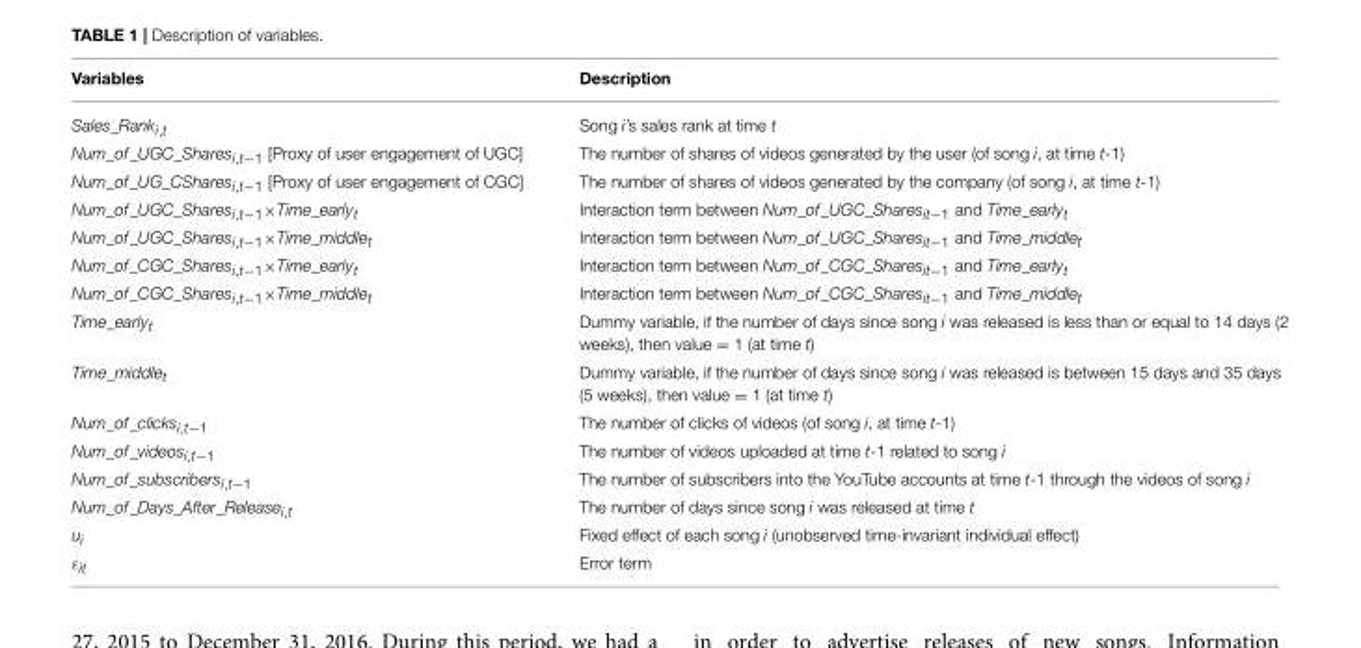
<table><thead><tr><td>Variables</td><td>Description</td></tr></thead><tbody><tr><td>Sales_Rank<sub>i,t</sub></td><td>Song i’s sales rank at time t</td></tr><tr><td>Num_of_UGC_Shares<sub>i,t−1</sub> [Proxy of user engagement of UGC]</td><td>The number of shares of videos generated by the user (of song i, at time t-1)</td></tr><tr><td>Num_of_UG_CShares<sub>i,t−1</sub> [Proxy of user engagement of CGC]</td><td>The number of shares of videos generated by the company (of song i, at time t-1)</td></tr><tr><td>Num_of_UGC_Shares<sub>i,t−1</sub>×Time_early<sub>t</sub></td><td>Interaction term between Num_of_UGC_Shares<sub>it−1</sub> and Time_early<sub>t</sub></td></tr><tr><td>Num_of_UGC_Shares<sub>i,t−1</sub>×Time_middle<sub>t</sub></td><td>Interaction term between Num_of_UGC_Shares<sub>it−1</sub> and Time_middle<sub>t</sub></td></tr><tr><td>Num_of_CGC_Shares<sub>i,t−1</sub>×Time_early<sub>t</sub></td><td>Interaction term between Num_of_CGC_Shares<sub>it−1</sub> and Time_early<sub>t</sub></td></tr><tr><td>Num_of_CGC_Shares<sub>i,t−1</sub>×Time_middle<sub>t</sub></td><td>Interaction term between Num_of_CGC_Shares<sub>it−1</sub> and Time_middle<sub>t</sub></td></tr><tr><td>Time_early<sub>t</sub></td><td>Dummy variable, if the number of days since song i was released is less than or equal to 14 days (2 weeks), then value = 1 (at time t)</td></tr><tr><td>Time_middle<sub>t</sub></td><td>Dummy variable, if the number of days since song i was released is between 15 days and 35 days (5 weeks), then value = 1 (at time t)</td></tr><tr><td>Num_of_clicks<sub>i,t−1</sub></td><td>The number of clicks of videos (of song i, at time t-1)</td></tr><tr><td>Num_of_videos<sub>i,t−1</sub></td><td>The number of videos uploaded at time t-1 related to song i</td></tr><tr><td>Num_of_subscribers<sub>i,t−1</sub></td><td>The number of subscribers into the YouTube accounts at time t-1 through the videos of song i</td></tr><tr><td>Num_of_Days_After_Release<sub>i,t</sub></td><td>The number of days since song i was released at time t</td></tr><tr><td>u<sub>i</sub></td><td>Fixed effect of each song i (unobserved time-invariant individual effect)</td></tr><tr><td>ε<sub>it</sub></td><td>Error term</td></tr></tbody></table>